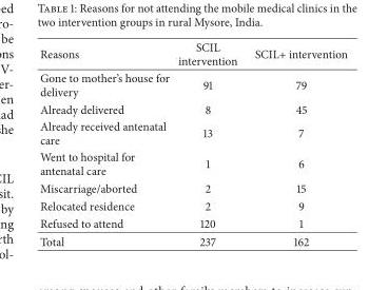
<table><thead><tr><td>Reasons</td><td>SCIL intervention</td><td>SCIL+ intervention</td></tr></thead><tbody><tr><td>Gone to mother’s house for delivery</td><td>91</td><td>79</td></tr><tr><td>Already delivered</td><td>8</td><td>45</td></tr><tr><td>Already received antenatal care</td><td>13</td><td>7</td></tr><tr><td>Went to hospital for antenatal care</td><td>1</td><td>6</td></tr><tr><td>Miscarriage/aborted</td><td>2</td><td>15</td></tr><tr><td>Relocated residence</td><td>2</td><td>9</td></tr><tr><td>Refused to attend</td><td>120</td><td>1</td></tr><tr><td>Total</td><td>237</td><td>162</td></tr></tbody></table>